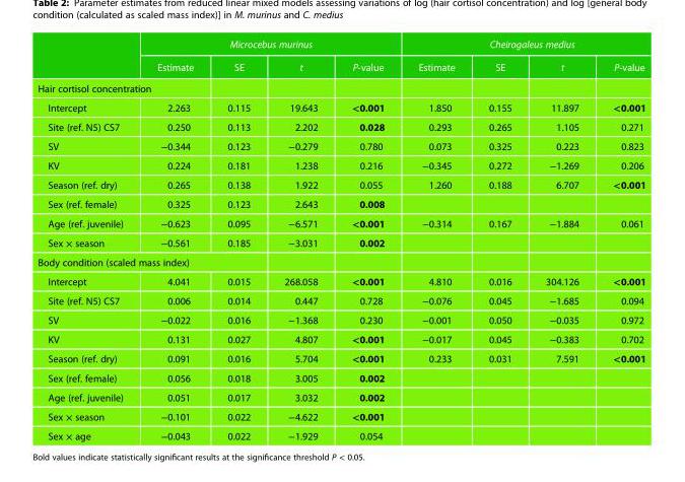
<table><thead><tr><td rowspan="2"></td><td colspan="4">Microcebus murinus</td><td colspan="4">Cheirogaleus medius</td></tr><tr><td>Estimate</td><td>SE</td><td>t</td><td>P-value</td><td>Estimate</td><td>SE</td><td>t</td><td>P-value</td></tr></thead><tbody><tr><td colspan="9">Hair cortisol concentration</td></tr><tr><td>Intercept</td><td>2.263</td><td>0.115</td><td>19.643</td><td>&lt;0.001</td><td>1.850</td><td>0.155</td><td>11.897</td><td>&lt;0.001</td></tr><tr><td>Site (ref. N5) CS7</td><td>0.250</td><td>0.113</td><td>2.202</td><td>0.028</td><td>0.293</td><td>0.265</td><td>1.105</td><td>0.271</td></tr><tr><td>SV</td><td>−0.344</td><td>0.123</td><td>−0.279</td><td>0.780</td><td>0.073</td><td>0.325</td><td>0.223</td><td>0.823</td></tr><tr><td>KV</td><td>0.224</td><td>0.181</td><td>1.238</td><td>0.216</td><td>−0.345</td><td>0.272</td><td>−1.269</td><td>0.206</td></tr><tr><td>Season (ref. dry)</td><td>0.265</td><td>0.138</td><td>1.922</td><td>0.055</td><td>1.260</td><td>0.188</td><td>6.707</td><td>&lt;0.001</td></tr><tr><td>Sex (ref. female)</td><td>0.325</td><td>0.123</td><td>2.643</td><td>0.008</td><td></td><td></td><td></td><td></td></tr><tr><td>Age (ref. juvenile)</td><td>−0.623</td><td>0.095</td><td>−6.571</td><td>&lt;0.001</td><td>−0.314</td><td>0.167</td><td>−1.884</td><td>0.061</td></tr><tr><td>Sex × season</td><td>−0.561</td><td>0.185</td><td>−3.031</td><td>0.002</td><td></td><td></td><td></td><td></td></tr><tr><td colspan="9">Body condition (scaled mass index)</td></tr><tr><td>Intercept</td><td>4.041</td><td>0.015</td><td>268.058</td><td>&lt;0.001</td><td>4.810</td><td>0.016</td><td>304.126</td><td>&lt;0.001</td></tr><tr><td>Site (ref. N5) CS7</td><td>0.006</td><td>0.014</td><td>0.447</td><td>0.728</td><td>−0.076</td><td>0.045</td><td>−1.685</td><td>0.094</td></tr><tr><td>SV</td><td>−0.022</td><td>0.016</td><td>−1.368</td><td>0.230</td><td>−0.001</td><td>0.050</td><td>−0.035</td><td>0.972</td></tr><tr><td>KV</td><td>0.131</td><td>0.027</td><td>4.807</td><td>&lt;0.001</td><td>−0.017</td><td>0.045</td><td>−0.383</td><td>0.702</td></tr><tr><td>Season (ref. dry)</td><td>0.091</td><td>0.016</td><td>5.704</td><td>&lt;0.001</td><td>0.233</td><td>0.031</td><td>7.591</td><td>&lt;0.001</td></tr><tr><td>Sex (ref. female)</td><td>0.056</td><td>0.018</td><td>3.005</td><td>0.002</td><td></td><td></td><td></td><td></td></tr><tr><td>Age (ref. juvenile)</td><td>0.051</td><td>0.017</td><td>3.032</td><td>0.002</td><td></td><td></td><td></td><td></td></tr><tr><td>Sex × season</td><td>−0.101</td><td>0.022</td><td>−4.622</td><td>&lt;0.001</td><td></td><td></td><td></td><td></td></tr><tr><td>Sex × age</td><td>−0.043</td><td>0.022</td><td>−1.929</td><td>0.054</td><td></td><td></td><td></td><td></td></tr></tbody></table>